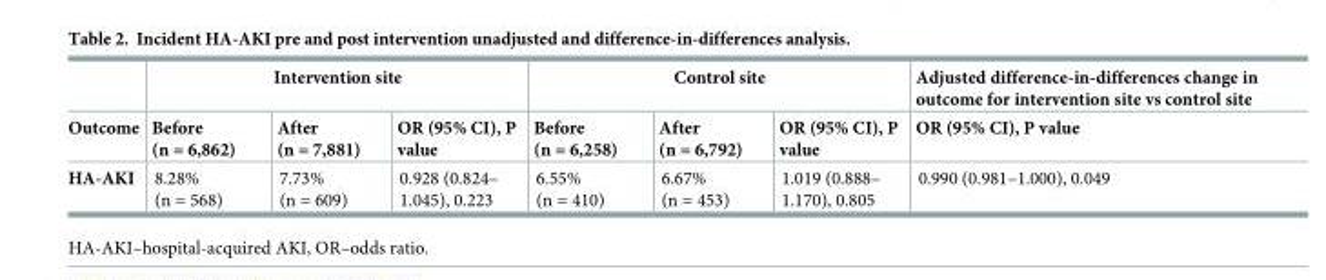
<table><thead><tr><td rowspan="2">Outcome</td><td colspan="3">Intervention site</td><td colspan="3">Control site</td><td rowspan="2">Adjusted difference-in-differences change in outcome for intervention site vs control site OR (95% CI), P value</td></tr><tr><td>Before (n = 6,862)</td><td>After (n = 7,881)</td><td>OR (95% CI), P value</td><td>Before (n = 6,258)</td><td>After (n = 6,792)</td><td>OR (95% CI), P value</td></tr></thead><tbody><tr><td>HA-AKI</td><td>8.28% (n = 568)</td><td>7.73% (n = 609)</td><td>0.928 (0.824– 1.045), 0.223</td><td>6.55% (n = 410)</td><td>6.67% (n = 453)</td><td>1.019 (0.888– 1.170), 0.805</td><td>0.990 (0.981–1.000), 0.049</td></tr></tbody></table>